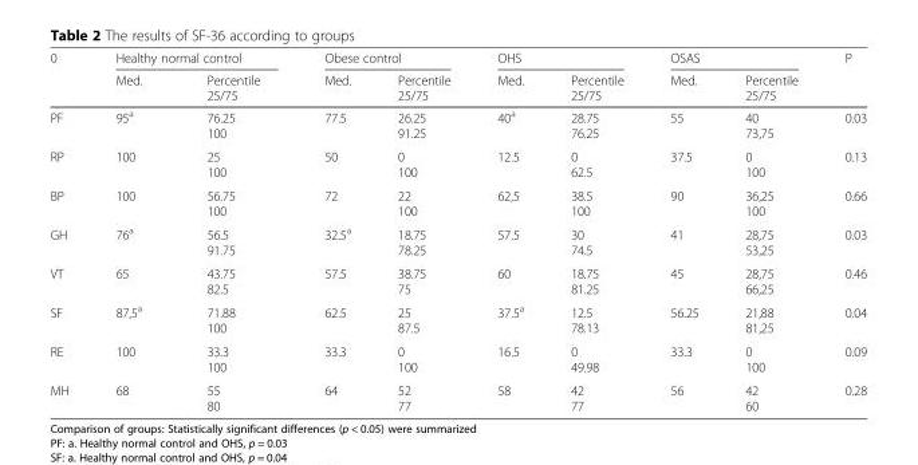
<table><thead><tr><td rowspan="2">0</td><td colspan="2">Healthy normal control</td><td colspan="2">Obese control</td><td colspan="2">OHS</td><td colspan="2">OSAS</td><td rowspan="2">P</td></tr><tr><td>Med.</td><td>Percentile 25/75</td><td>Med.</td><td>Percentile 25/75</td><td>Med.</td><td>Percentile 25/75</td><td>Med.</td><td>Percentile 25/75</td></tr></thead><tbody><tr><td>PF</td><td>95<sup>a</sup></td><td>76.25 100</td><td>77.5</td><td>26.25 91.25</td><td>40<sup>a</sup></td><td>28.75 76.25</td><td>55</td><td>40 73,75</td><td>0.03</td></tr><tr><td>RP</td><td>100</td><td>25 100</td><td>50</td><td>0 100</td><td>12.5</td><td>0 62.5</td><td>37.5</td><td>0 100</td><td>0.13</td></tr><tr><td>BP</td><td>100</td><td>56.75 100</td><td>72</td><td>22 100</td><td>62,5</td><td>38.5 100</td><td>90</td><td>36,25 100</td><td>0.66</td></tr><tr><td>GH</td><td>76<sup>a</sup></td><td>56.5 91.75</td><td>32.5<sup>a</sup></td><td>18.75 78.25</td><td>57.5</td><td>30 74.5</td><td>41</td><td>28,75 53,25</td><td>0.03</td></tr><tr><td>VT</td><td>65</td><td>43.75 82.5</td><td>57.5</td><td>38.75 75</td><td>60</td><td>18.75 81.25</td><td>45</td><td>28,75 66,25</td><td>0.46</td></tr><tr><td>SF</td><td>87,5<sup>a</sup></td><td>71.88 100</td><td>62.5</td><td>25 87.5</td><td>37.5<sup>a</sup></td><td>12.5 78.13</td><td>56.25</td><td>21,88 81,25</td><td>0.04</td></tr><tr><td>RE</td><td>100</td><td>33.3 100</td><td>33.3</td><td>0 100</td><td>16.5</td><td>0 49.98</td><td>33.3</td><td>0 100</td><td>0.09</td></tr><tr><td>MH</td><td>68</td><td>55 80</td><td>64</td><td>52 77</td><td>58</td><td>42 77</td><td>56</td><td>42 60</td><td>0.28</td></tr></tbody></table>